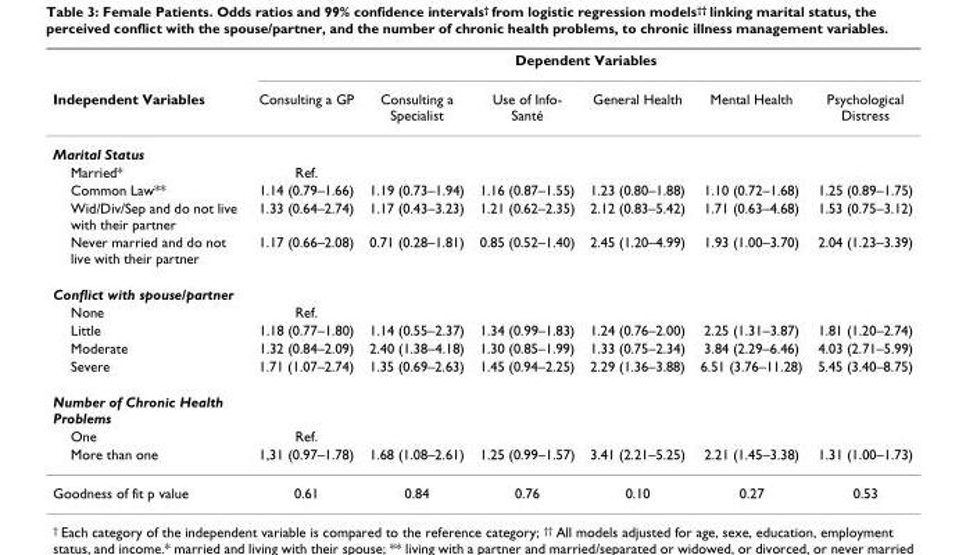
<table><thead><tr><td rowspan="2">Independent Variables</td><td colspan="6">Dependent Variables</td></tr><tr><td>Consulting a GP</td><td>Consulting a Specialist</td><td>Use of Info- Santé</td><td>General Health</td><td>Mental Health</td><td>Psychological Distress</td></tr></thead><tbody><tr><td colspan="7">Marital Status</td></tr><tr><td>Married*</td><td>Ref.</td><td></td><td></td><td></td><td></td><td></td></tr><tr><td>Common Law**</td><td>1.14 (0.79–1.66)</td><td>1.19 (0.73–1.94)</td><td>1.16 (0.87–1.55)</td><td>1.23 (0.80–1.88)</td><td>1.10 (0.72–1.68)</td><td>1.25 (0.89–1.75)</td></tr><tr><td>Wid/Div/Sep and do not live with their partner</td><td>1.33 (0.64–2.74)</td><td>1.17 (0.43–3.23)</td><td>1.21 (0.62–2.35)</td><td>2.12 (0.83–5.42)</td><td>1.71 (0.63–4.68)</td><td>1.53 (0.75–3.12)</td></tr><tr><td>Never married and do not live with their partner</td><td>1.17 (0.66–2.08)</td><td>0.71 (0.28–1.81)</td><td>0.85 (0.52–1.40)</td><td>2.45 (1.20–4.99)</td><td>1.93 (1.00–3.70)</td><td>2.04 (1.23–3.39)</td></tr><tr><td colspan="7">Conflict with spouse/partner</td></tr><tr><td>None</td><td>Ref.</td><td></td><td></td><td></td><td></td><td></td></tr><tr><td>Little</td><td>1.18 (0.77–1.80)</td><td>1.14 (0.55–2.37)</td><td>1.34 (0.99–1.83)</td><td>1.24 (0.76–2.00)</td><td>2.25 (1.31–3.87)</td><td>1.81 (1.20–2.74)</td></tr><tr><td>Moderate</td><td>1.32 (0.84–2.09)</td><td>2.40 (1.38–4.18)</td><td>1.30 (0.85–1.99)</td><td>1.33 (0.75–2.34)</td><td>3.84 (2.29–6.46)</td><td>4.03 (2.71–5.99)</td></tr><tr><td>Severe</td><td>1.71 (1.07–2.74)</td><td>1.35 (0.69–2.63)</td><td>1.45 (0.94–2.25)</td><td>2.29 (1.36–3.88)</td><td>6.51 (3.76–11.28)</td><td>5.45 (3.40–8.75)</td></tr><tr><td colspan="7">Number of Chronic Health Problems</td></tr><tr><td>One</td><td>Ref.</td><td></td><td></td><td></td><td></td><td></td></tr><tr><td>More than one</td><td>1,31 (0.97–1.78)</td><td>1.68 (1.08–2.61)</td><td>1.25 (0.99–1.57)</td><td>3.41 (2.21–5.25)</td><td>2.21 (1.45–3.38)</td><td>1.31 (1.00–1.73)</td></tr><tr><td>Goodness of fit p value</td><td>0.61</td><td>0.84</td><td>0.76</td><td>0.10</td><td>0.27</td><td>0.53</td></tr></tbody></table>